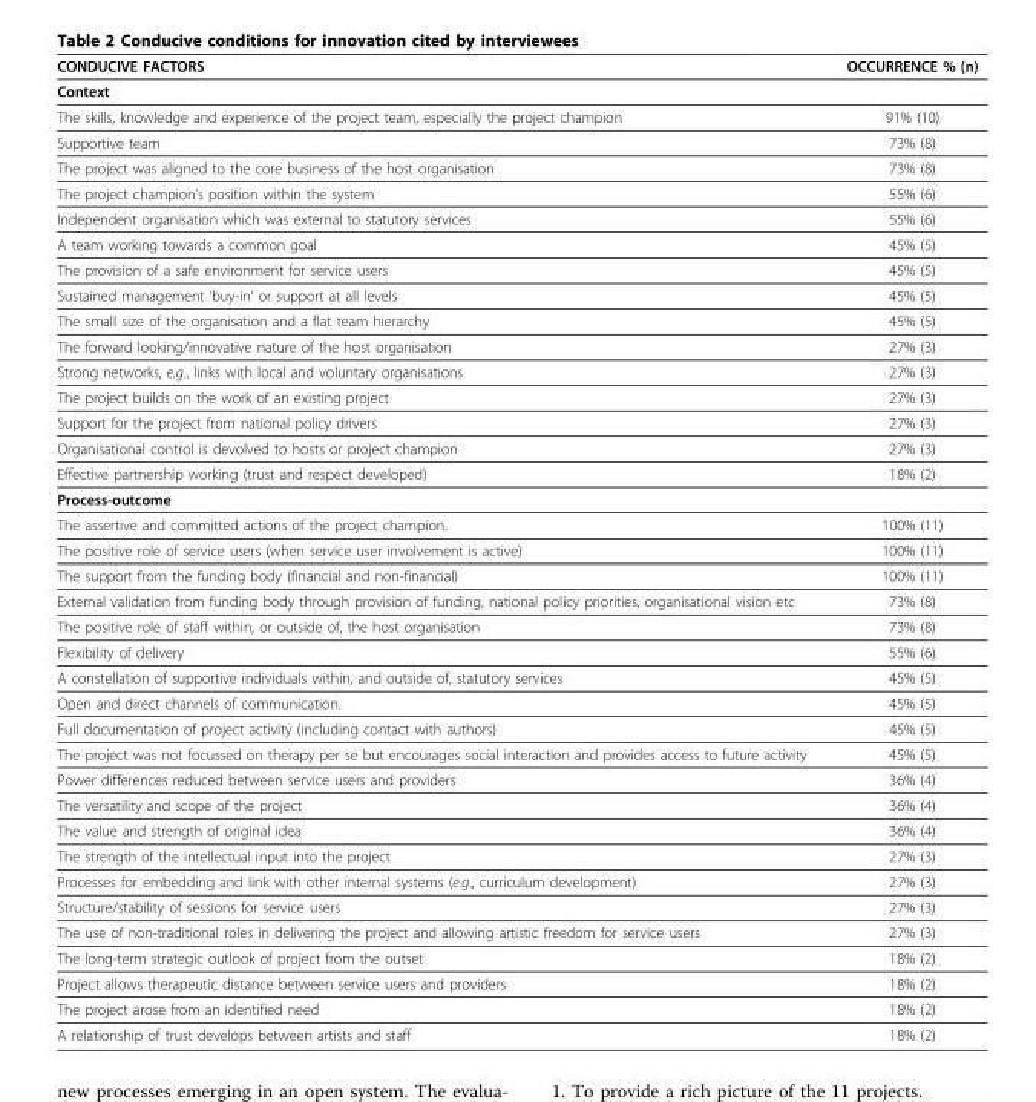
<table><thead><tr><td>CONDUCIVE FACTORS</td><td>OCCURRENCE % (n)</td></tr></thead><tbody><tr><td colspan="2">Context</td></tr><tr><td>The skills, knowledge and experience of the project team, especially the project champion</td><td>91% (10)</td></tr><tr><td>Supportive team</td><td>73% (8)</td></tr><tr><td>The project was aligned to the core business of the host organisation</td><td>73% (8)</td></tr><tr><td>The project champion’s position within the system</td><td>55% (6)</td></tr><tr><td>Independent organisation which was external to statutory services</td><td>55% (6)</td></tr><tr><td>A team working towards a common goal</td><td>45% (5)</td></tr><tr><td>The provision of a safe environment for service users</td><td>45% (5)</td></tr><tr><td>Sustained management ‘buy-in’ or support at all levels</td><td>45% (5)</td></tr><tr><td>The small size of the organisation and a flat team hierarchy</td><td>45% (5)</td></tr><tr><td>The forward looking/innovative nature of the host organisation</td><td>27% (3)</td></tr><tr><td>Strong networks, e.g., links with local and voluntary organisations</td><td>27% (3)</td></tr><tr><td>The project builds on the work of an existing project</td><td>27% (3)</td></tr><tr><td>Support for the project from national policy drivers</td><td>27% (3)</td></tr><tr><td>Organisational control is devolved to hosts or project champion</td><td>27% (3)</td></tr><tr><td>Effective partnership working (trust and respect developed)</td><td>18% (2)</td></tr><tr><td colspan="2">Process-outcome</td></tr><tr><td>The assertive and committed actions of the project champion.</td><td>100% (11)</td></tr><tr><td>The positive role of service users (when service user involvement is active)</td><td>100% (11)</td></tr><tr><td>The support from the funding body (financial and non-financial)</td><td>100% (11)</td></tr><tr><td>External validation from funding body through provision of funding, national policy priorities, organisational vision etc</td><td>73% (8)</td></tr><tr><td>The positive role of staff within, or outside of, the host organisation</td><td>73% (8)</td></tr><tr><td>Flexibility of delivery</td><td>55% (6)</td></tr><tr><td>A constellation of supportive individuals within, and outside of, statutory services</td><td>45% (5)</td></tr><tr><td>Open and direct channels of communication.</td><td>45% (5)</td></tr><tr><td>Full documentation of project activity (including contact with authors)</td><td>45% (5)</td></tr><tr><td>The project was not focussed on therapy per se but encourages social interaction and provides access to future activity</td><td>45% (5)</td></tr><tr><td>Power differences reduced between service users and providers</td><td>36% (4)</td></tr><tr><td>The versatility and scope of the project</td><td>36% (4)</td></tr><tr><td>The value and strength of original idea</td><td>36% (4)</td></tr><tr><td>The strength of the intellectual input into the project</td><td>27% (3)</td></tr><tr><td>Processes for embedding and link with other internal systems (e.g., curriculum development)</td><td>27% (3)</td></tr><tr><td>Structure/stability of sessions for service users</td><td>27% (3)</td></tr><tr><td>The use of non-traditional roles in delivering the project and allowing artistic freedom for service users</td><td>27% (3)</td></tr><tr><td>The long-term strategic outlook of project from the outset</td><td>18% (2)</td></tr><tr><td>Project allows therapeutic distance between service users and providers</td><td>18% (2)</td></tr><tr><td>The project arose from an identified need</td><td>18% (2)</td></tr><tr><td>A relationship of trust develops between artists and staff</td><td>18% (2)</td></tr></tbody></table>